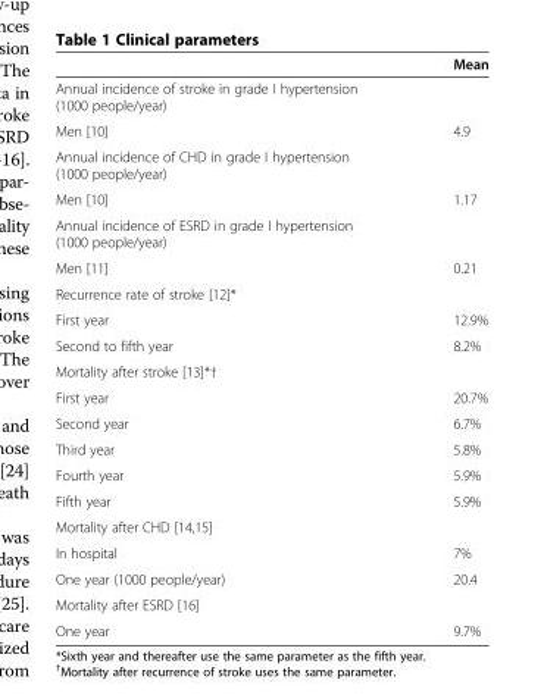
<table><thead><tr><td></td><td>Mean</td></tr></thead><tbody><tr><td colspan="2">Annual incidence of stroke in grade I hypertension (1000 people/year)</td></tr><tr><td>Men [10]</td><td>4.9</td></tr><tr><td colspan="2">Annual incidence of CHD in grade I hypertension (1000 people/year)</td></tr><tr><td>Men [10]</td><td>1.17</td></tr><tr><td colspan="2">Annual incidence of ESRD in grade I hypertension (1000 people/year)</td></tr><tr><td>Men [11]</td><td>0.21</td></tr><tr><td colspan="2">Recurrence rate of stroke [12]*</td></tr><tr><td>First year</td><td>12.9%</td></tr><tr><td>Second to fifth year</td><td>8.2%</td></tr><tr><td colspan="2">Mortality after stroke [13]*†</td></tr><tr><td>First year</td><td>20.7%</td></tr><tr><td>Second year</td><td>6.7%</td></tr><tr><td>Third year</td><td>5.8%</td></tr><tr><td>Fourth year</td><td>5.9%</td></tr><tr><td>Fifth year</td><td>5.9%</td></tr><tr><td colspan="2">Mortality after CHD [14,15]</td></tr><tr><td>In hospital</td><td>7%</td></tr><tr><td>One year (1000 people/year)</td><td>20.4</td></tr><tr><td colspan="2">Mortality after ESRD [16]</td></tr><tr><td>One year</td><td>9.7%</td></tr></tbody></table>